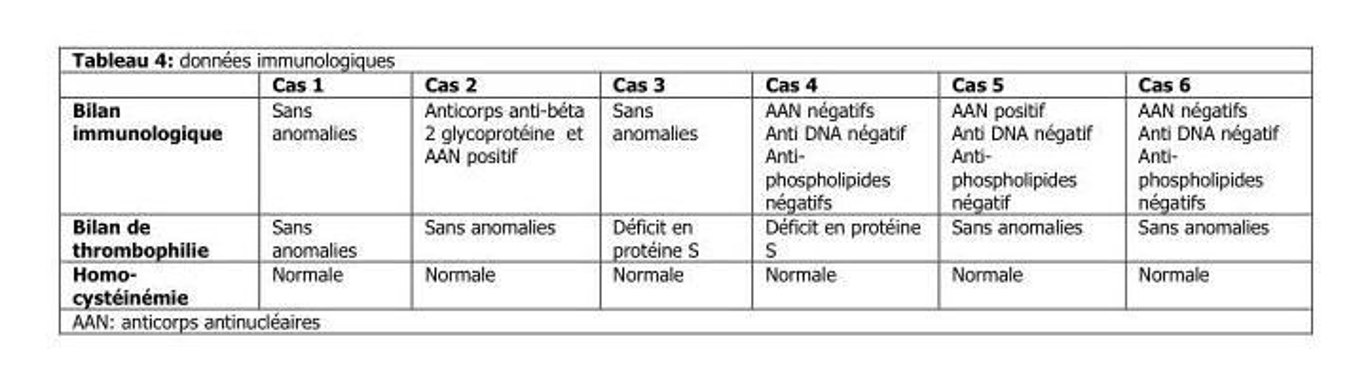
<table><thead><tr><td></td><td>Cas 1</td><td>Cas 2</td><td>Cas 3</td><td>Cas 4</td><td>Cas 5</td><td>Cas 6</td></tr></thead><tbody><tr><td>Bilan immunologique</td><td>Sans anomalies</td><td>Anticorps anti-béta 2 glycoprotéine et AAN positif</td><td>Sans anomalies</td><td>AAN négatifs Anti DNA négatif Anti- phospholipides négatifs</td><td>AAN positif Anti DNA négatif Anti- phospholipides négatif</td><td>AAN négatifs Anti DNA négatif Anti- phospholipides négatifs</td></tr><tr><td>Bilan de thrombophilie</td><td>Sans anomalies</td><td>Sans anomalies</td><td>Déficit en protéine S</td><td>Déficit en protéine S</td><td>Sans anomalies</td><td>Sans anomalies</td></tr><tr><td>Homo- cystéinémie</td><td>Normale</td><td>Normale</td><td>Normale</td><td>Normale</td><td>Normale</td><td>Normale</td></tr></tbody></table>